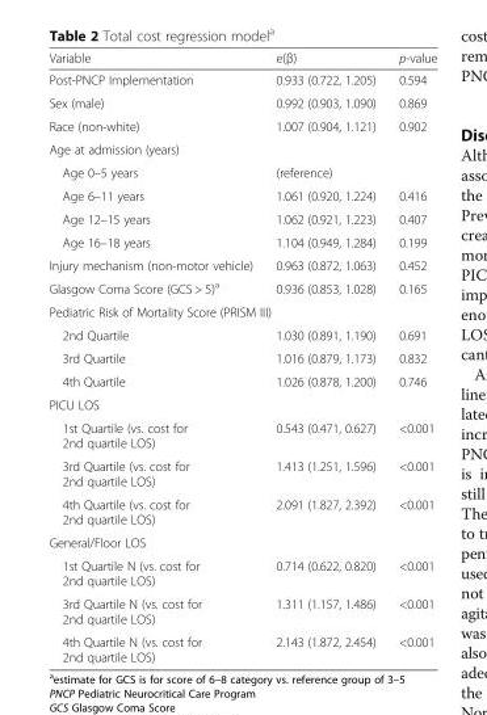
<table><thead><tr><td>Variable</td><td>e(β)</td><td>p-value</td></tr></thead><tbody><tr><td>Post-PNCP Implementation</td><td>0.933 (0.722, 1.205)</td><td>0.594</td></tr><tr><td>Sex (male)</td><td>0.992 (0.903, 1.090)</td><td>0.869</td></tr><tr><td>Race (non-white)</td><td>1.007 (0.904, 1.121)</td><td>0.902</td></tr><tr><td colspan="3">Age at admission (years)</td></tr><tr><td>Age 0–5 years</td><td colspan="2">(reference)</td></tr><tr><td>Age 6–11 years</td><td>1.061 (0.920, 1.224)</td><td>0.416</td></tr><tr><td>Age 12–15 years</td><td>1.062 (0.921, 1.223)</td><td>0.407</td></tr><tr><td>Age 16–18 years</td><td>1.104 (0.949, 1.284)</td><td>0.199</td></tr><tr><td>Injury mechanism (non-motor vehicle)</td><td>0.963 (0.872, 1.063)</td><td>0.452</td></tr><tr><td>Glasgow Coma Score (GCS &gt; 5)<sup>a</sup></td><td>0.936 (0.853, 1.028)</td><td>0.165</td></tr><tr><td colspan="3">Pediatric Risk of Mortality Score (PRISM III)</td></tr><tr><td>2nd Quartile</td><td>1.030 (0.891, 1.190)</td><td>0.691</td></tr><tr><td>3rd Quartile</td><td>1.016 (0.879, 1.173)</td><td>0.832</td></tr><tr><td>4th Quartile</td><td>1.026 (0.878, 1.200)</td><td>0.746</td></tr><tr><td colspan="3">PICU LOS</td></tr><tr><td>1st Quartile (vs. cost for 2nd quartile LOS)</td><td>0.543 (0.471, 0.627)</td><td>&lt;0.001</td></tr><tr><td>3rd Quartile (vs. cost for 2nd quartile LOS)</td><td>1.413 (1.251, 1.596)</td><td>&lt;0.001</td></tr><tr><td>4th Quartile (vs. cost for 2nd quartile LOS)</td><td>2.091 (1.827, 2.392)</td><td>&lt;0.001</td></tr><tr><td colspan="3">General/Floor LOS</td></tr><tr><td>1st Quartile N (vs. cost for 2nd quartile LOS)</td><td>0.714 (0.622, 0.820)</td><td>&lt;0.001</td></tr><tr><td>3rd Quartile N (vs. cost for 2nd quartile LOS)</td><td>1.311 (1.157, 1.486)</td><td>&lt;0.001</td></tr><tr><td>4th Quartile N (vs. cost for 2nd quartile LOS)</td><td>2.143 (1.872, 2.454)</td><td>&lt;0.001</td></tr></tbody></table>